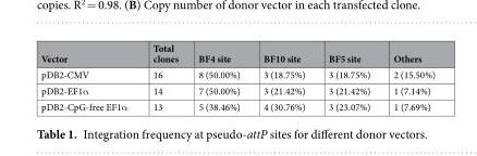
<table><thead><tr><td>Vector</td><td>Total clones</td><td>BF4 site</td><td>BF10 site</td><td>BF5 site</td><td>Others</td></tr></thead><tbody><tr><td>pDB2-CMV</td><td>16</td><td>8 (50.00%)</td><td>3 (18.75%)</td><td>3 (18.75%)</td><td>2 (15.50%)</td></tr><tr><td>pDB2-EF1α</td><td>14</td><td>7 (50.00%)</td><td>3 (21.42%)</td><td>3 (21.42%)</td><td>1 (7.14%)</td></tr><tr><td>pDB2-CpG-free EF1α</td><td>13</td><td>5 (38.46%)</td><td>4 (30.76%)</td><td>3 (23.07%)</td><td>1 (7.69%)</td></tr></tbody></table>